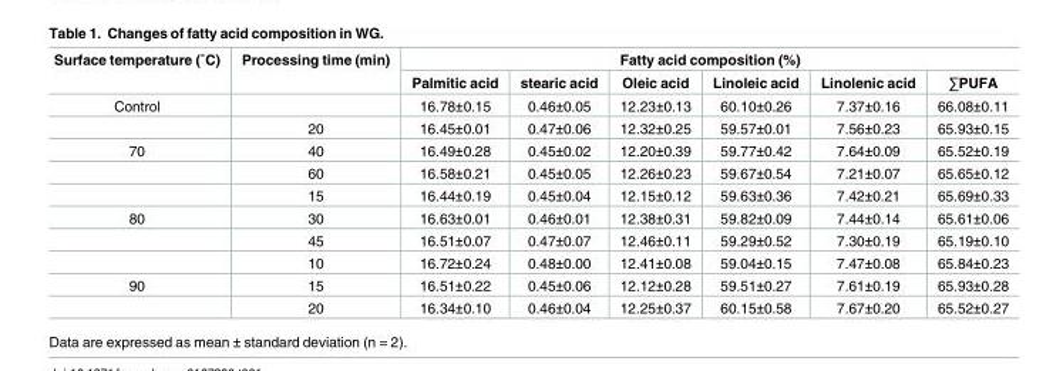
<table><thead><tr><td rowspan="2">Surface temperature (˚C)</td><td rowspan="2">Processing time (min)</td><td colspan="6">Fatty acid composition (%)</td></tr><tr><td>Palmitic acid</td><td>stearic acid</td><td>Oleic acid</td><td>Linoleic acid</td><td>Linolenic acid</td><td>∑PUFA</td></tr></thead><tbody><tr><td rowspan="2">Control</td><td></td><td>16.78±0.15</td><td>0.46±0.05</td><td>12.23±0.13</td><td>60.10±0.26</td><td>7.37±0.16</td><td>66.08±0.11</td></tr><tr><td>20</td><td>16.45±0.01</td><td>0.47±0.06</td><td>12.32±0.25</td><td>59.57±0.01</td><td>7.56±0.23</td><td>65.93±0.15</td></tr><tr><td rowspan="3">70</td><td>40</td><td>16.49±0.28</td><td>0.45±0.02</td><td>12.20±0.39</td><td>59.77±0.42</td><td>7.64±0.09</td><td>65.52±0.19</td></tr><tr><td>60</td><td>16.58±0.21</td><td>0.45±0.05</td><td>12.26±0.23</td><td>59.67±0.54</td><td>7.21±0.07</td><td>65.65±0.12</td></tr><tr><td>15</td><td>16.44±0.19</td><td>0.45±0.04</td><td>12.15±0.12</td><td>59.63±0.36</td><td>7.42±0.21</td><td>65.69±0.33</td></tr><tr><td rowspan="3">80</td><td>30</td><td>16.63±0.01</td><td>0.46±0.01</td><td>12.38±0.31</td><td>59.82±0.09</td><td>7.44±0.14</td><td>65.61±0.06</td></tr><tr><td>45</td><td>16.51±0.07</td><td>0.47±0.07</td><td>12.46±0.11</td><td>59.29±0.52</td><td>7.30±0.19</td><td>65.19±0.10</td></tr><tr><td>10</td><td>16.72±0.24</td><td>0.48±0.00</td><td>12.41±0.08</td><td>59.04±0.15</td><td>7.47±0.08</td><td>65.84±0.23</td></tr><tr><td rowspan="2">90</td><td>15</td><td>16.51±0.22</td><td>0.45±0.06</td><td>12.12±0.28</td><td>59.51±0.27</td><td>7.61±0.19</td><td>65.93±0.28</td></tr><tr><td>20</td><td>16.34±0.10</td><td>0.46±0.04</td><td>12.25±0.37</td><td>60.15±0.58</td><td>7.67±0.20</td><td>65.52±0.27</td></tr></tbody></table>